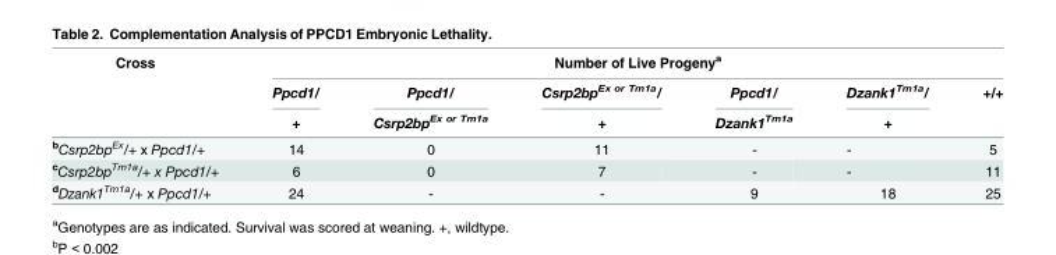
<table><thead><tr><td rowspan="3">Cross</td><td colspan="6">Number of Live Progeny<sup>a</sup></td></tr><tr><td rowspan="2">Ppcd1/ +</td><td rowspan="2">Ppcd1/ Csrp2bp<sup>Ex or Tm1a</sup></td><td rowspan="2">Csrp2bp<sup>Ex or Tm1a</sup>/ +</td><td rowspan="2">Ppcd1/ Dzank1<sup>Tm1a</sup></td><td rowspan="2">Dzank1<sup>Tm1a</sup>/ +</td><td rowspan="2">+/+</td></tr><tr></tr></thead><tbody><tr><td><sup>b</sup>Csrp2bp<sup>Ex</sup>/+ x Ppcd1/+</td><td>14</td><td>0</td><td>11</td><td>-</td><td>-</td><td>5</td></tr><tr><td><sup>c</sup>Csrp2bp<sup>Tm1a</sup>/+ x Ppcd1/+</td><td>6</td><td>0</td><td>7</td><td>-</td><td>-</td><td>11</td></tr><tr><td><sup>d</sup>Dzank1<sup>Tm1a</sup>/+ x Ppcd1/+</td><td>24</td><td>-</td><td>-</td><td>9</td><td>18</td><td>25</td></tr></tbody></table>